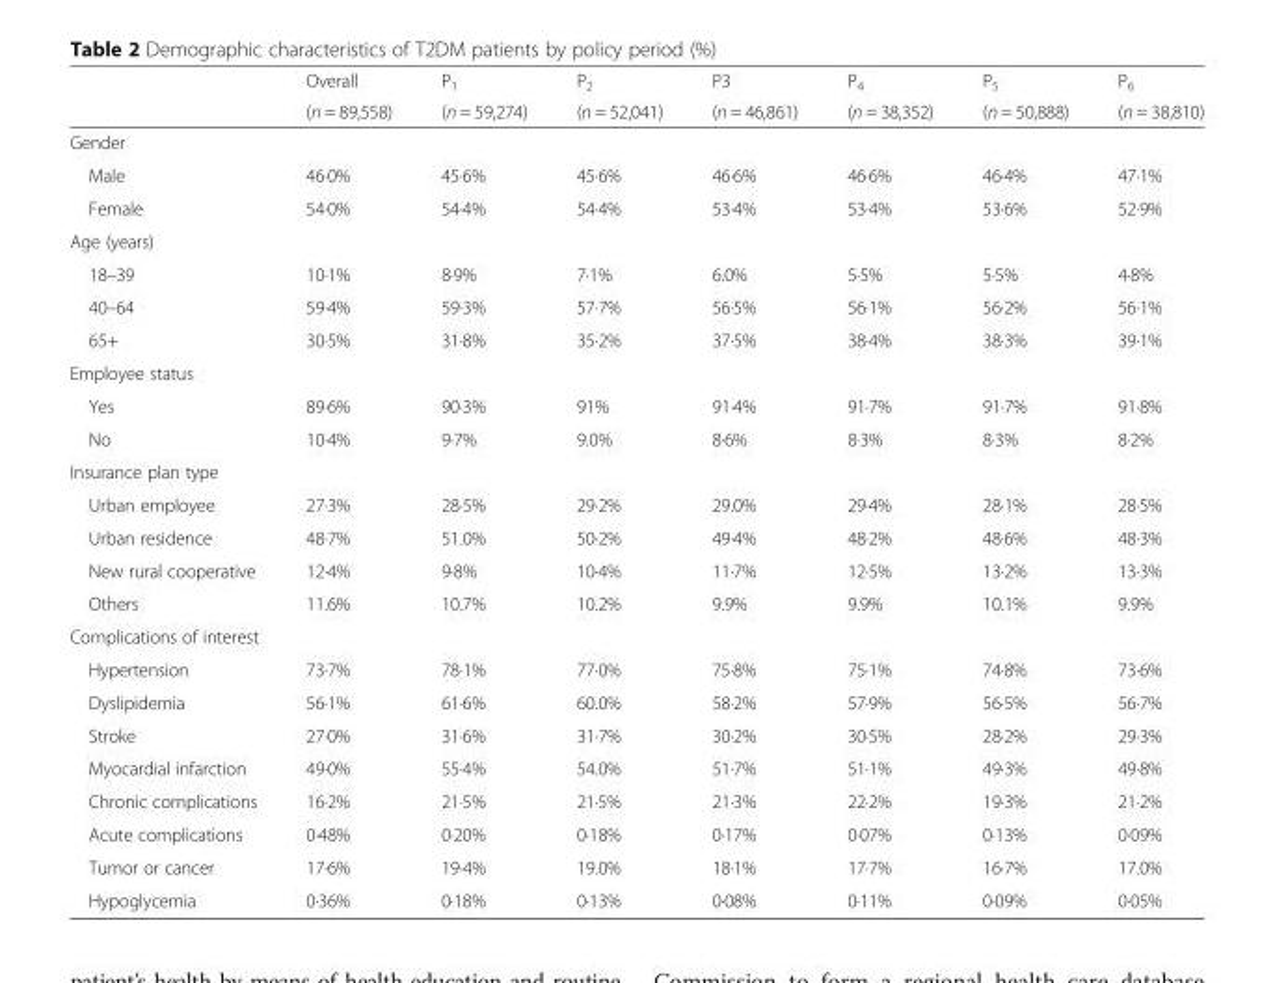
<table><thead><tr><td rowspan="2"></td><td rowspan="2">Overall (n = 89,558)</td><td rowspan="2">P<sub>1</sub> (n = 59,274)</td><td rowspan="2">P<sub>2</sub> (n = 52,041)</td><td rowspan="2">P3 (n = 46,861)</td><td rowspan="2">P<sub>4</sub> (n = 38,352)</td><td rowspan="2">P<sub>5</sub> (n = 50,888)</td><td rowspan="2">P<sub>6</sub> (n = 38,810)</td></tr><tr></tr></thead><tbody><tr><td colspan="8">Gender</td></tr><tr><td>Male</td><td>46·0%</td><td>45·6%</td><td>45·6%</td><td>46·6%</td><td>46·6%</td><td>46·4%</td><td>47·1%</td></tr><tr><td>Female</td><td>54·0%</td><td>54·4%</td><td>54·4%</td><td>53·4%</td><td>53·4%</td><td>53·6%</td><td>52·9%</td></tr><tr><td colspan="8">Age (years)</td></tr><tr><td>18–39</td><td>10·1%</td><td>8·9%</td><td>7·1%</td><td>6.0%</td><td>5·5%</td><td>5·5%</td><td>4·8%</td></tr><tr><td>40–64</td><td>59·4%</td><td>59·3%</td><td>57·7%</td><td>56·5%</td><td>56·1%</td><td>56·2%</td><td>56·1%</td></tr><tr><td>65+</td><td>30·5%</td><td>31·8%</td><td>35·2%</td><td>37·5%</td><td>38·4%</td><td>38·3%</td><td>39·1%</td></tr><tr><td colspan="8">Employee status</td></tr><tr><td>Yes</td><td>89·6%</td><td>90·3%</td><td>91%</td><td>91·4%</td><td>91·7%</td><td>91·7%</td><td>91·8%</td></tr><tr><td>No</td><td>10·4%</td><td>9·7%</td><td>9.0%</td><td>8·6%</td><td>8·3%</td><td>8·3%</td><td>8·2%</td></tr><tr><td colspan="8">Insurance plan type</td></tr><tr><td>Urban employee</td><td>27·3%</td><td>28·5%</td><td>29·2%</td><td>29.0%</td><td>29·4%</td><td>28·1%</td><td>28·5%</td></tr><tr><td>Urban residence</td><td>48·7%</td><td>51.0%</td><td>50·2%</td><td>49·4%</td><td>48·2%</td><td>48·6%</td><td>48·3%</td></tr><tr><td>New rural cooperative</td><td>12·4%</td><td>9·8%</td><td>10·4%</td><td>11·7%</td><td>12·5%</td><td>13·2%</td><td>13·3%</td></tr><tr><td>Others</td><td>11.6%</td><td>10.7%</td><td>10.2%</td><td>9.9%</td><td>9.9%</td><td>10.1%</td><td>9.9%</td></tr><tr><td colspan="8">Complications of interest</td></tr><tr><td>Hypertension</td><td>73·7%</td><td>78·1%</td><td>77·0%</td><td>75·8%</td><td>75·1%</td><td>74·8%</td><td>73·6%</td></tr><tr><td>Dyslipidemia</td><td>56·1%</td><td>61·6%</td><td>60.0%</td><td>58·2%</td><td>57·9%</td><td>56·5%</td><td>56·7%</td></tr><tr><td>Stroke</td><td>27·0%</td><td>31·6%</td><td>31·7%</td><td>30·2%</td><td>30·5%</td><td>28·2%</td><td>29·3%</td></tr><tr><td>Myocardial infarction</td><td>49·0%</td><td>55·4%</td><td>54.0%</td><td>51·7%</td><td>51·1%</td><td>49·3%</td><td>49·8%</td></tr><tr><td>Chronic complications</td><td>16·2%</td><td>21·5%</td><td>21·5%</td><td>21·3%</td><td>22·2%</td><td>19·3%</td><td>21·2%</td></tr><tr><td>Acute complications</td><td>0·48%</td><td>0·20%</td><td>0·18%</td><td>0·17%</td><td>0·07%</td><td>0·13%</td><td>0·09%</td></tr><tr><td>Tumor or cancer</td><td>17·6%</td><td>19·4%</td><td>19.0%</td><td>18·1%</td><td>17·7%</td><td>16·7%</td><td>17.0%</td></tr><tr><td>Hypoglycemia</td><td>0·36%</td><td>0·18%</td><td>0·13%</td><td>0·08%</td><td>0·11%</td><td>0·09%</td><td>0·05%</td></tr></tbody></table>